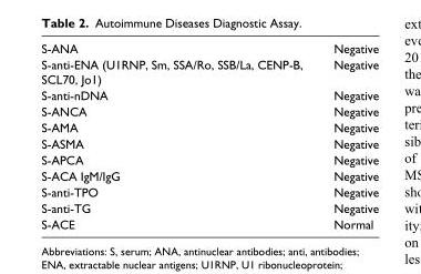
<table><tbody><tr><td>S-ANA</td><td>Negative</td></tr><tr><td>S-anti-ENA (U1RNP, Sm, SSA/Ro, SSB/La, CENP-B, SCL70, Jo1)</td><td>Negative</td></tr><tr><td>S-anti-nDNA</td><td>Negative</td></tr><tr><td>S-ANCA</td><td>Negative</td></tr><tr><td>S-AMA</td><td>Negative</td></tr><tr><td>S-ASMA</td><td>Negative</td></tr><tr><td>S-APCA</td><td>Negative</td></tr><tr><td>S-ACA IgM/IgG</td><td>Negative</td></tr><tr><td>S-anti-TPO</td><td>Negative</td></tr><tr><td>S-anti-TG</td><td>Negative</td></tr><tr><td>S-ACE</td><td>Normal</td></tr></tbody></table>